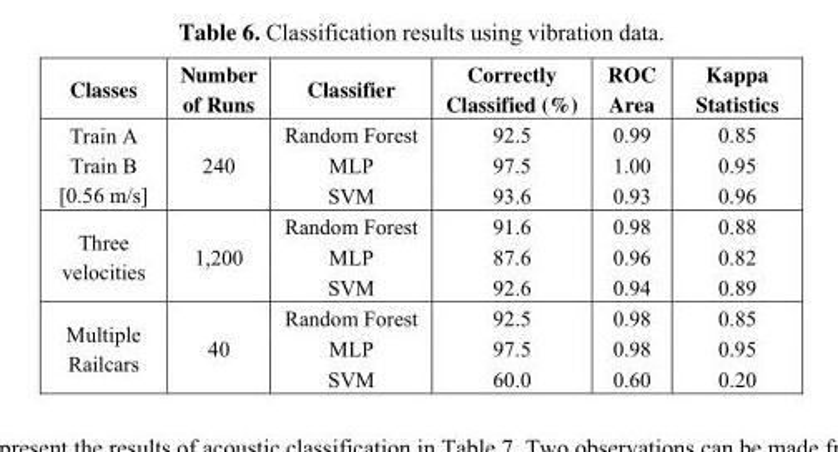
<table><thead><tr><td>Classes</td><td>Number of Runs</td><td>Classifier</td><td>Correctly Classified (%)</td><td>ROC Area</td><td>Kappa Statistics</td></tr></thead><tbody><tr><td rowspan="3">Train A Train B [0.56 m/s]</td><td rowspan="3">240</td><td>Random Forest</td><td>92.5</td><td>0.99</td><td>0.85</td></tr><tr><td>MLP</td><td>97.5</td><td>1.00</td><td>0.95</td></tr><tr><td>SVM</td><td>93.6</td><td>0.93</td><td>0.96</td></tr><tr><td rowspan="3">Three velocities</td><td rowspan="3">1,200</td><td>Random Forest</td><td>91.6</td><td>0.98</td><td>0.88</td></tr><tr><td>MLP</td><td>87.6</td><td>0.96</td><td>0.82</td></tr><tr><td>SVM</td><td>92.6</td><td>0.94</td><td>0.89</td></tr><tr><td rowspan="3">Multiple Railcars</td><td rowspan="3">40</td><td>Random Forest</td><td>92.5</td><td>0.98</td><td>0.85</td></tr><tr><td>MLP</td><td>97.5</td><td>0.98</td><td>0.95</td></tr><tr><td>SVM</td><td>60.0</td><td>0.60</td><td>0.20</td></tr></tbody></table>